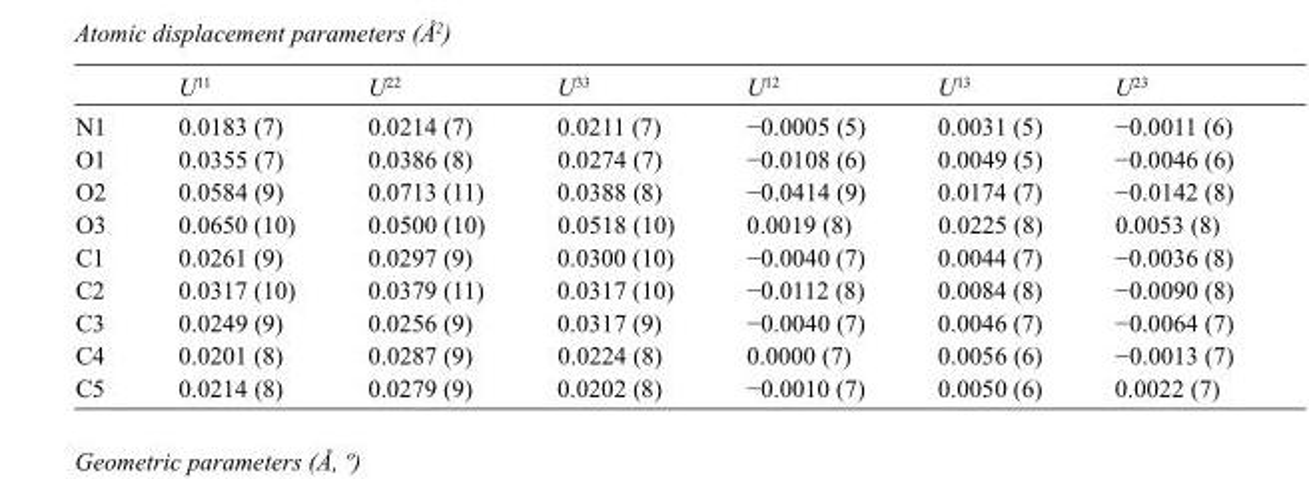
<table><thead><tr><td></td><td>U<sup>11</sup></td><td>U<sup>22</sup></td><td>U<sup>33</sup></td><td>U<sup>12</sup></td><td>U<sup>13</sup></td><td>U<sup>23</sup></td></tr></thead><tbody><tr><td>N1</td><td>0.0183 (7)</td><td>0.0214 (7)</td><td>0.0211 (7)</td><td>−0.0005 (5)</td><td>0.0031 (5)</td><td>−0.0011 (6)</td></tr><tr><td>O1</td><td>0.0355 (7)</td><td>0.0386 (8)</td><td>0.0274 (7)</td><td>−0.0108 (6)</td><td>0.0049 (5)</td><td>−0.0046 (6)</td></tr><tr><td>O2</td><td>0.0584 (9)</td><td>0.0713 (11)</td><td>0.0388 (8)</td><td>−0.0414 (9)</td><td>0.0174 (7)</td><td>−0.0142 (8)</td></tr><tr><td>O3</td><td>0.0650 (10)</td><td>0.0500 (10)</td><td>0.0518 (10)</td><td>0.0019 (8)</td><td>0.0225 (8)</td><td>0.0053 (8)</td></tr><tr><td>C1</td><td>0.0261 (9)</td><td>0.0297 (9)</td><td>0.0300 (10)</td><td>−0.0040 (7)</td><td>0.0044 (7)</td><td>−0.0036 (8)</td></tr><tr><td>C2</td><td>0.0317 (10)</td><td>0.0379 (11)</td><td>0.0317 (10)</td><td>−0.0112 (8)</td><td>0.0084 (8)</td><td>−0.0090 (8)</td></tr><tr><td>C3</td><td>0.0249 (9)</td><td>0.0256 (9)</td><td>0.0317 (9)</td><td>−0.0040 (7)</td><td>0.0046 (7)</td><td>−0.0064 (7)</td></tr><tr><td>C4</td><td>0.0201 (8)</td><td>0.0287 (9)</td><td>0.0224 (8)</td><td>0.0000 (7)</td><td>0.0056 (6)</td><td>−0.0013 (7)</td></tr><tr><td>C5</td><td>0.0214 (8)</td><td>0.0279 (9)</td><td>0.0202 (8)</td><td>−0.0010 (7)</td><td>0.0050 (6)</td><td>0.0022 (7)</td></tr></tbody></table>